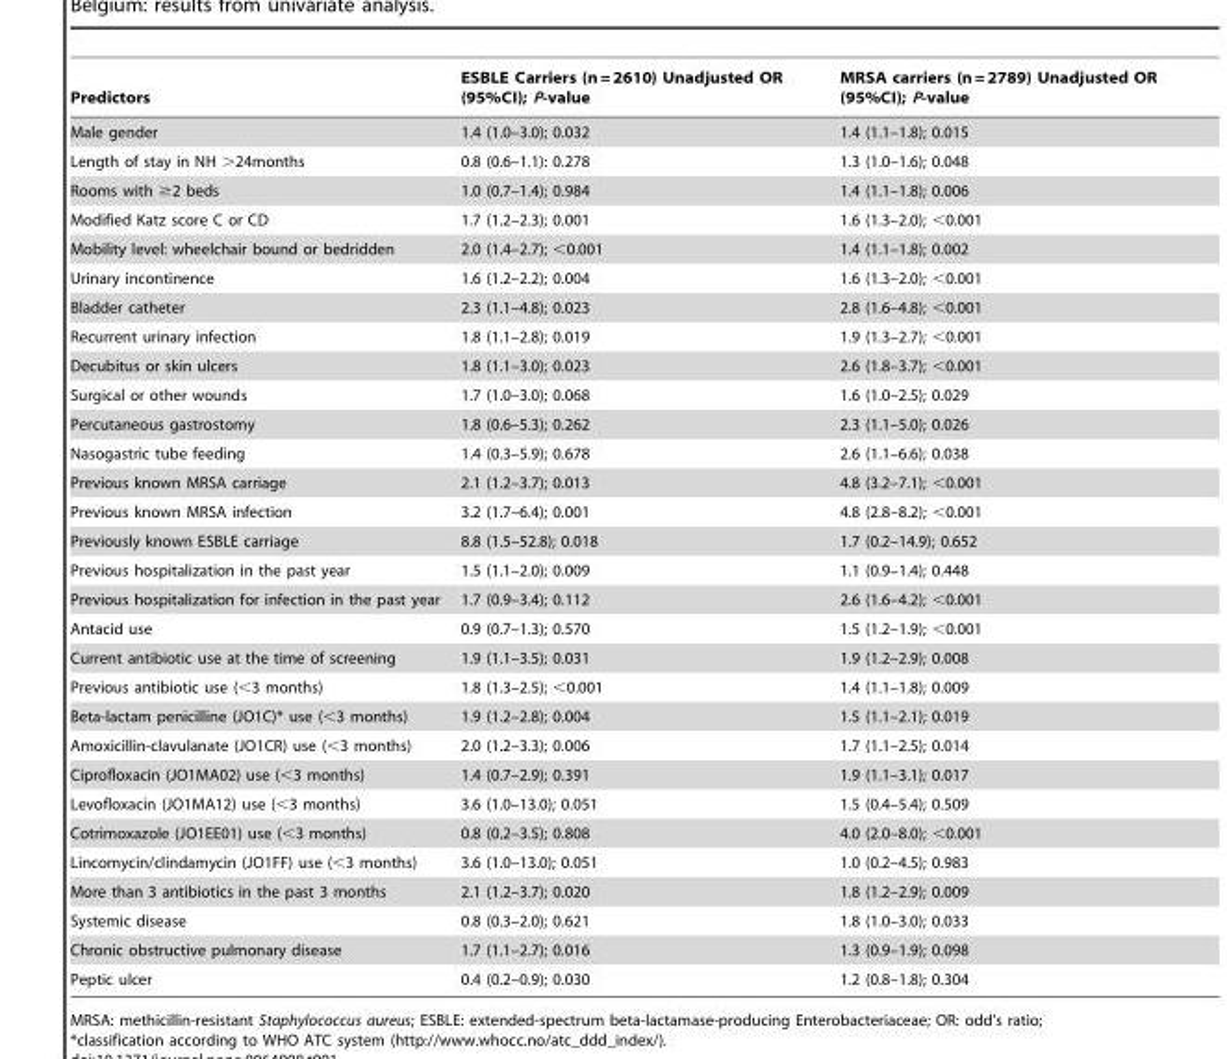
<table><thead><tr><td>Predictors</td><td>ESBLE Carriers (n = 2610) Unadjusted OR (95%CI); P-value</td><td>MRSA carriers (n = 2789) Unadjusted OR (95%CI); P-value</td></tr></thead><tbody><tr><td>Male gender</td><td>1.4 (1.0–3.0); 0.032</td><td>1.4 (1.1–1.8); 0.015</td></tr><tr><td>Length of stay in NH &gt;24months</td><td>0.8 (0.6–1.1): 0.278</td><td>1.3 (1.0–1.6); 0.048</td></tr><tr><td>Rooms with ≥2 beds</td><td>1.0 (0.7–1.4); 0.984</td><td>1.4 (1.1–1.8); 0.006</td></tr><tr><td>Modified Katz score C or CD</td><td>1.7 (1.2–2.3); 0.001</td><td>1.6 (1.3–2.0); &lt;0.001</td></tr><tr><td>Mobility level: wheelchair bound or bedridden</td><td>2.0 (1.4–2.7); &lt;0.001</td><td>1.4 (1.1–1.8); 0.002</td></tr><tr><td>Urinary incontinence</td><td>1.6 (1.2–2.2); 0.004</td><td>1.6 (1.3–2.0); &lt;0.001</td></tr><tr><td>Bladder catheter</td><td>2.3 (1.1–4.8); 0.023</td><td>2.8 (1.6–4.8); &lt;0.001</td></tr><tr><td>Recurrent urinary infection</td><td>1.8 (1.1–2.8); 0.019</td><td>1.9 (1.3–2.7); &lt;0.001</td></tr><tr><td>Decubitus or skin ulcers</td><td>1.8 (1.1–3.0); 0.023</td><td>2.6 (1.8–3.7); &lt;0.001</td></tr><tr><td>Surgical or other wounds</td><td>1.7 (1.0–3.0); 0.068</td><td>1.6 (1.0–2.5); 0.029</td></tr><tr><td>Percutaneous gastrostomy</td><td>1.8 (0.6–5.3); 0.262</td><td>2.3 (1.1–5.0); 0.026</td></tr><tr><td>Nasogastric tube feeding</td><td>1.4 (0.3–5.9); 0.678</td><td>2.6 (1.1–6.6); 0.038</td></tr><tr><td>Previous known MRSA carriage</td><td>2.1 (1.2–3.7); 0.013</td><td>4.8 (3.2–7.1); &lt;0.001</td></tr><tr><td>Previous known MRSA infection</td><td>3.2 (1.7–6.4); 0.001</td><td>4.8 (2.8–8.2); &lt;0.001</td></tr><tr><td>Previously known ESBLE carriage</td><td>8.8 (1.5–52.8); 0.018</td><td>1.7 (0.2–14.9); 0.652</td></tr><tr><td>Previous hospitalization in the past year</td><td>1.5 (1.1–2.0); 0.009</td><td>1.1 (0.9–1.4); 0.448</td></tr><tr><td>Previous hospitalization for infection in the past year</td><td>1.7 (0.9–3.4); 0.112</td><td>2.6 (1.6–4.2); &lt;0.001</td></tr><tr><td>Antacid use</td><td>0.9 (0.7–1.3); 0.570</td><td>1.5 (1.2–1.9); &lt;0.001</td></tr><tr><td>Current antibiotic use at the time of screening</td><td>1.9 (1.1–3.5); 0.031</td><td>1.9 (1.2–2.9); 0.008</td></tr><tr><td>Previous antibiotic use (&lt;3 months)</td><td>1.8 (1.3–2.5); &lt;0.001</td><td>1.4 (1.1–1.8); 0.009</td></tr><tr><td>Beta-lactam penicilline (JO1C)* use (&lt;3 months)</td><td>1.9 (1.2–2.8); 0.004</td><td>1.5 (1.1–2.1); 0.019</td></tr><tr><td>Amoxicillin-clavulanate (JO1CR) use (&lt;3 months)</td><td>2.0 (1.2–3.3); 0.006</td><td>1.7 (1.1–2.5); 0.014</td></tr><tr><td>Ciprofloxacin (JO1MA02) use (&lt;3 months)</td><td>1.4 (0.7–2.9); 0.391</td><td>1.9 (1.1–3.1); 0.017</td></tr><tr><td>Levofloxacin (JO1MA12) use (&lt;3 months)</td><td>3.6 (1.0–13.0); 0.051</td><td>1.5 (0.4–5.4); 0.509</td></tr><tr><td>Cotrimoxazole (JO1EE01) use (&lt;3 months)</td><td>0.8 (0.2–3.5); 0.808</td><td>4.0 (2.0–8.0); &lt;0.001</td></tr><tr><td>Lincomycin/clindamycin (JO1FF) use (&lt;3 months)</td><td>3.6 (1.0–13.0); 0.051</td><td>1.0 (0.2–4.5); 0.983</td></tr><tr><td>More than 3 antibiotics in the past 3 months</td><td>2.1 (1.2–3.7); 0.020</td><td>1.8 (1.2–2.9); 0.009</td></tr><tr><td>Systemic disease</td><td>0.8 (0.3–2.0); 0.621</td><td>1.8 (1.0–3.0); 0.033</td></tr><tr><td>Chronic obstructive pulmonary disease</td><td>1.7 (1.1–2.7); 0.016</td><td>1.3 (0.9–1.9); 0.098</td></tr><tr><td>Peptic ulcer</td><td>0.4 (0.2–0.9); 0.030</td><td>1.2 (0.8–1.8); 0.304</td></tr></tbody></table>